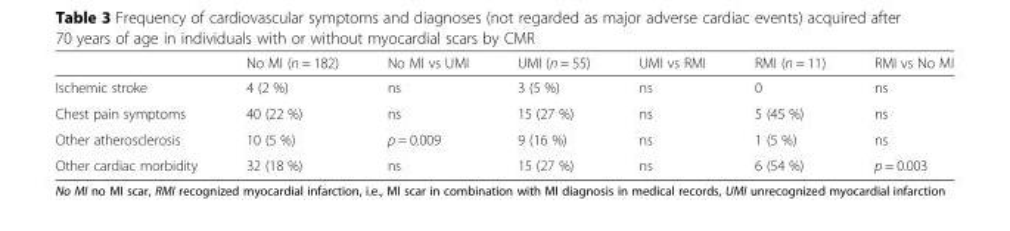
<table><thead><tr><td></td><td>No MI (n = 182)</td><td>No MI vs UMI</td><td>UMI (n = 55)</td><td>UMI vs RMI</td><td>RMI (n = 11)</td><td>RMI vs No MI</td></tr></thead><tbody><tr><td>Ischemic stroke</td><td>4 (2 %)</td><td>ns</td><td>3 (5 %)</td><td>ns</td><td>0</td><td>ns</td></tr><tr><td>Chest pain symptoms</td><td>40 (22 %)</td><td>ns</td><td>15 (27 %)</td><td>ns</td><td>5 (45 %)</td><td>ns</td></tr><tr><td>Other atherosclerosis</td><td>10 (5 %)</td><td>p = 0.009</td><td>9 (16 %)</td><td>ns</td><td>1 (5 %)</td><td>ns</td></tr><tr><td>Other cardiac morbidity</td><td>32 (18 %)</td><td>ns</td><td>15 (27 %)</td><td>ns</td><td>6 (54 %)</td><td>p = 0.003</td></tr></tbody></table>